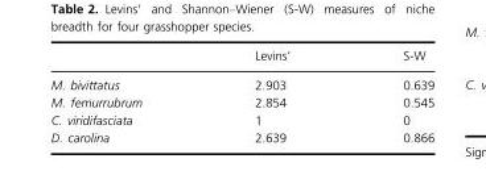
<table><thead><tr><td></td><td>Levins’</td><td>S-W</td></tr></thead><tbody><tr><td>M. bivittatus</td><td>2.903</td><td>0.639</td></tr><tr><td>M. femurrubrum</td><td>2.854</td><td>0.545</td></tr><tr><td>C. viridifasciata</td><td>1</td><td>0</td></tr><tr><td>D. carolina</td><td>2.639</td><td>0.866</td></tr></tbody></table>